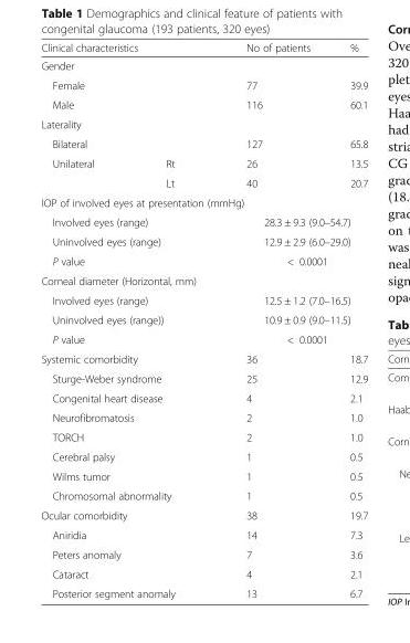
<table><thead><tr><td colspan="2">Clinical characteristics</td><td>No of patients</td><td>%</td></tr></thead><tbody><tr><td colspan="4">Gender</td></tr><tr><td colspan="2">Female</td><td>77</td><td>39.9</td></tr><tr><td colspan="2">Male</td><td>116</td><td>60.1</td></tr><tr><td colspan="4">Laterality</td></tr><tr><td colspan="2">Bilateral</td><td>127</td><td>65.8</td></tr><tr><td rowspan="2">Unilateral</td><td>Rt</td><td>26</td><td>13.5</td></tr><tr><td>Lt</td><td>40</td><td>20.7</td></tr><tr><td colspan="4">IOP of involved eyes at presentation (mmHg)</td></tr><tr><td colspan="2">Involved eyes (range)</td><td colspan="2">28.3 ± 9.3 (9.0–54.7)</td></tr><tr><td colspan="2">Uninvolved eyes (range)</td><td colspan="2">12.9 ± 2.9 (6.0–29.0)</td></tr><tr><td colspan="2">P value</td><td colspan="2">&lt; 0.0001</td></tr><tr><td colspan="4">Corneal diameter (Horizontal, mm)</td></tr><tr><td colspan="2">Involved eyes (range)</td><td colspan="2">12.5 ± 1.2 (7.0–16.5)</td></tr><tr><td colspan="2">Uninvolved eyes (range))</td><td colspan="2">10.9 ± 0.9 (9.0–11.5)</td></tr><tr><td colspan="2">P value</td><td colspan="2">&lt; 0.0001</td></tr><tr><td colspan="2">Systemic comorbidity</td><td>36</td><td>18.7</td></tr><tr><td colspan="2">Sturge-Weber syndrome</td><td>25</td><td>12.9</td></tr><tr><td colspan="2">Congenital heart disease</td><td>4</td><td>2.1</td></tr><tr><td colspan="2">Neurofibromatosis</td><td>2</td><td>1.0</td></tr><tr><td colspan="2">TORCH</td><td>2</td><td>1.0</td></tr><tr><td colspan="2">Cerebral palsy</td><td>1</td><td>0.5</td></tr><tr><td colspan="2">Wilms tumor</td><td>1</td><td>0.5</td></tr><tr><td colspan="2">Chromosomal abnormality</td><td>1</td><td>0.5</td></tr><tr><td colspan="2">Ocular comorbidity</td><td>38</td><td>19.7</td></tr><tr><td colspan="2">Aniridia</td><td>14</td><td>7.3</td></tr><tr><td colspan="2">Peters anomaly</td><td>7</td><td>3.6</td></tr><tr><td colspan="2">Cataract</td><td>4</td><td>2.1</td></tr><tr><td colspan="2">Posterior segment anomaly</td><td>13</td><td>6.7</td></tr></tbody></table>